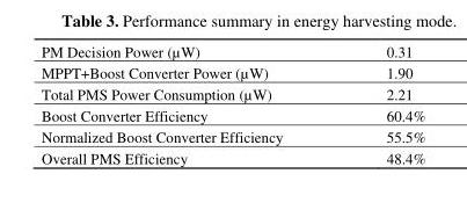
<table><tbody><tr><td>PM Decision Power (µW)</td><td>0.31</td></tr><tr><td>MPPT+Boost Converter Power (µW)</td><td>1.90</td></tr><tr><td>Total PMS Power Consumption (µW)</td><td>2.21</td></tr><tr><td>Boost Converter Efficiency</td><td>60.4%</td></tr><tr><td>Normalized Boost Converter Efficiency</td><td>55.5%</td></tr><tr><td>Overall PMS Efficiency</td><td>48.4%</td></tr></tbody></table>